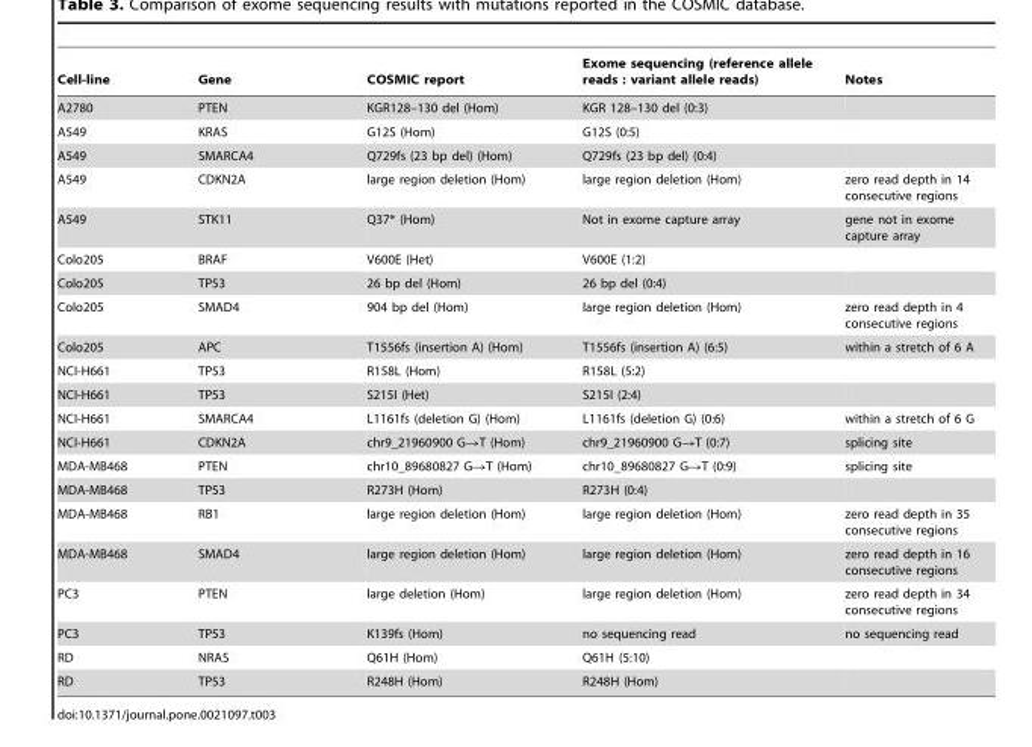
<table><thead><tr><td>Cell-line</td><td>Gene</td><td>COSMIC report</td><td>Exome sequencing (reference allele reads : variant allele reads)</td><td>Notes</td></tr></thead><tbody><tr><td>A2780</td><td>PTEN</td><td>KGR128–130 del (Hom)</td><td>KGR 128–130 del (0:3)</td><td></td></tr><tr><td>A549</td><td>KRAS</td><td>G12S (Hom)</td><td>G12S (0:5)</td><td></td></tr><tr><td>A549</td><td>SMARCA4</td><td>Q729fs (23 bp del) (Hom)</td><td>Q729fs (23 bp del) (0:4)</td><td></td></tr><tr><td>A549</td><td>CDKN2A</td><td>large region deletion (Hom)</td><td>large region deletion (Hom)</td><td>zero read depth in 14 consecutive regions</td></tr><tr><td>A549</td><td>STK11</td><td>Q37* (Hom)</td><td>Not in exome capture array</td><td>gene not in exome capture array</td></tr><tr><td>Colo205</td><td>BRAF</td><td>V600E (Het)</td><td>V600E (1:2)</td><td></td></tr><tr><td>Colo205</td><td>TP53</td><td>26 bp del (Hom)</td><td>26 bp del (0:4)</td><td></td></tr><tr><td>Colo205</td><td>SMAD4</td><td>904 bp del (Hom)</td><td>large region deletion (Hom)</td><td>zero read depth in 4 consecutive regions</td></tr><tr><td>Colo205</td><td>APC</td><td>T1556fs (insertion A) (Hom)</td><td>T1556fs (insertion A) (6:5)</td><td>within a stretch of 6 A</td></tr><tr><td>NCI-H661</td><td>TP53</td><td>R158L (Hom)</td><td>R158L (5:2)</td><td></td></tr><tr><td>NCI-H661</td><td>TP53</td><td>S215I (Het)</td><td>S215I (2:4)</td><td></td></tr><tr><td>NCI-H661</td><td>SMARCA4</td><td>L1161fs (deletion G) (Hom)</td><td>L1161fs (deletion G) (0:6)</td><td>within a stretch of 6 G</td></tr><tr><td>NCI-H661</td><td>CDKN2A</td><td>chr9_21960900 G→T (Hom)</td><td>chr9_21960900 G→T (0:7)</td><td>splicing site</td></tr><tr><td>MDA-MB468</td><td>PTEN</td><td>chr10_89680827 G→T (Hom)</td><td>chr10_89680827 G→T (0:9)</td><td>splicing site</td></tr><tr><td>MDA-MB468</td><td>TP53</td><td>R273H (Hom)</td><td>R273H (0:4)</td><td></td></tr><tr><td>MDA-MB468</td><td>RB1</td><td>large region deletion (Hom)</td><td>large region deletion (Hom)</td><td>zero read depth in 35 consecutive regions</td></tr><tr><td>MDA-MB468</td><td>SMAD4</td><td>large region deletion (Hom)</td><td>large region deletion (Hom)</td><td>zero read depth in 16 consecutive regions</td></tr><tr><td>PC3</td><td>PTEN</td><td>large deletion (Hom)</td><td>large region deletion (Hom)</td><td>zero read depth in 34 consecutive regions</td></tr><tr><td>PC3</td><td>TP53</td><td>K139fs (Hom)</td><td>no sequencing read</td><td>no sequencing read</td></tr><tr><td>RD</td><td>NRAS</td><td>Q61H (Hom)</td><td>Q61H (5:10)</td><td></td></tr><tr><td>RD</td><td>TP53</td><td>R248H (Hom)</td><td>R248H (Hom)</td><td></td></tr></tbody></table>